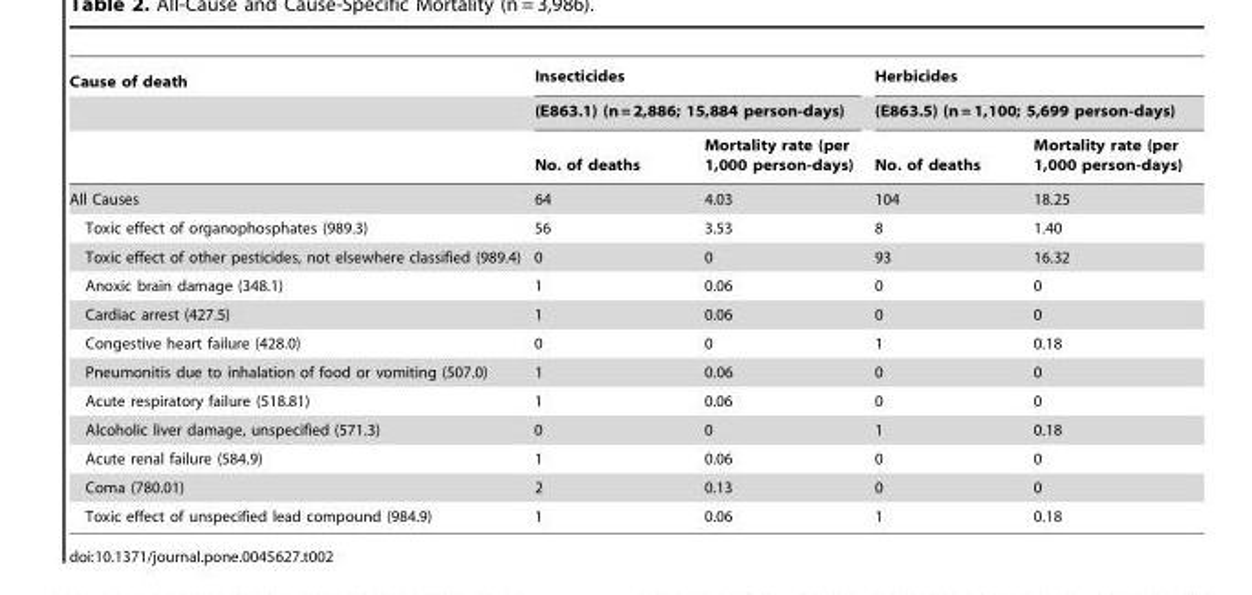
<table><thead><tr><td rowspan="3">Cause of death</td><td rowspan="2" colspan="2">Insecticides (E863.1) (n = 2,886; 15,884 person-days)</td><td rowspan="2" colspan="2">Herbicides (E863.5) (n = 1,100; 5,699 person-days)</td></tr><tr></tr><tr><td>No. of deaths</td><td>Mortality rate (per 1,000 person-days)</td><td>No. of deaths</td><td>Mortality rate (per 1,000 person-days)</td></tr></thead><tbody><tr><td>All Causes</td><td>64</td><td>4.03</td><td>104</td><td>18.25</td></tr><tr><td>Toxic effect of organophosphates (989.3)</td><td>56</td><td>3.53</td><td>8</td><td>1.40</td></tr><tr><td>Toxic effect of other pesticides, not elsewhere classified (989.4)</td><td>0</td><td>0</td><td>93</td><td>16.32</td></tr><tr><td>Anoxic brain damage (348.1)</td><td>1</td><td>0.06</td><td>0</td><td>0</td></tr><tr><td>Cardiac arrest (427.5)</td><td>1</td><td>0.06</td><td>0</td><td>0</td></tr><tr><td>Congestive heart failure (428.0)</td><td>0</td><td>0</td><td>1</td><td>0.18</td></tr><tr><td>Pneumonitis due to inhalation of food or vomiting (507.0)</td><td>1</td><td>0.06</td><td>0</td><td>0</td></tr><tr><td>Acute respiratory failure (518.81)</td><td>1</td><td>0.06</td><td>0</td><td>0</td></tr><tr><td>Alcoholic liver damage, unspecified (571.3)</td><td>0</td><td>0</td><td>1</td><td>0.18</td></tr><tr><td>Acute renal failure (584.9)</td><td>1</td><td>0.06</td><td>0</td><td>0</td></tr><tr><td>Coma (780.01)</td><td>2</td><td>0.13</td><td>0</td><td>0</td></tr><tr><td>Toxic effect of unspecified lead compound (984.9)</td><td>1</td><td>0.06</td><td>1</td><td>0.18</td></tr></tbody></table>